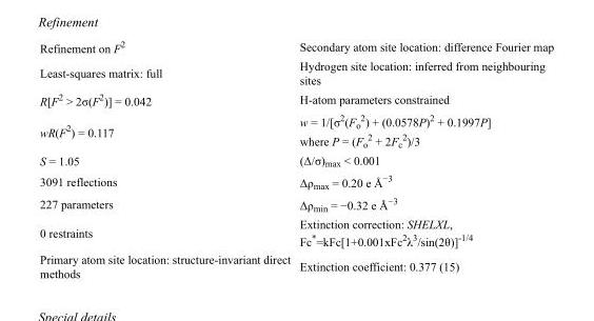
<table><tbody><tr><td>Refinement on F<sup>2</sup></td><td>Secondary atom site location: difference Fourier map</td></tr><tr><td>Least-squares matrix: full</td><td>Hydrogen site location: inferred from neighbouring sites</td></tr><tr><td>R[F<sup>2</sup> &gt; 2σ(F<sup>2</sup>)] = 0.042</td><td>H-atom parameters constrained</td></tr><tr><td>wR(F<sup>2</sup>) = 0.117</td><td>w = 1/[σ<sup>2</sup>(F<sub>o</sub> <sup>2</sup>) + (0.0578P)<sup>2</sup> + 0.1997P] where P = (F<sub>o</sub> <sup>2</sup> + 2F<sub>c</sub> <sup>2</sup>)/3</td></tr><tr><td>S = 1.05</td><td>(Δ/σ)<sub>max</sub> &lt; 0.001</td></tr><tr><td>3091 reflections</td><td>Δρ<sub>max</sub> = 0.20 e Å<sup>−3</sup></td></tr><tr><td>227 parameters</td><td>Δρ<sub>min</sub> = −0.32 e Å<sup>−3</sup></td></tr><tr><td>0 restraints</td><td>Extinction correction: SHELXL, Fc*=kFc[1+0.001xFc<sup>2</sup>λ<sup>3</sup>/sin(2θ)]<sup>-1/4</sup></td></tr><tr><td>Primary atom site location: structure-invariant direct methods</td><td>Extinction coefficient: 0.377 (15)</td></tr></tbody></table>